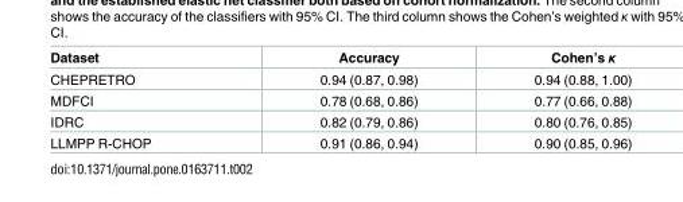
<table><thead><tr><td>Dataset</td><td>Accuracy</td><td>Cohen’s κ</td></tr></thead><tbody><tr><td>CHEPRETRO</td><td>0.94 (0.87, 0.98)</td><td>0.94 (0.88, 1.00)</td></tr><tr><td>MDFCI</td><td>0.78 (0.68, 0.86)</td><td>0.77 (0.66, 0.88)</td></tr><tr><td>IDRC</td><td>0.82 (0.79, 0.86)</td><td>0.80 (0.76, 0.85)</td></tr><tr><td>LLMPP R-CHOP</td><td>0.91 (0.86, 0.94)</td><td>0.90 (0.85, 0.96)</td></tr></tbody></table>